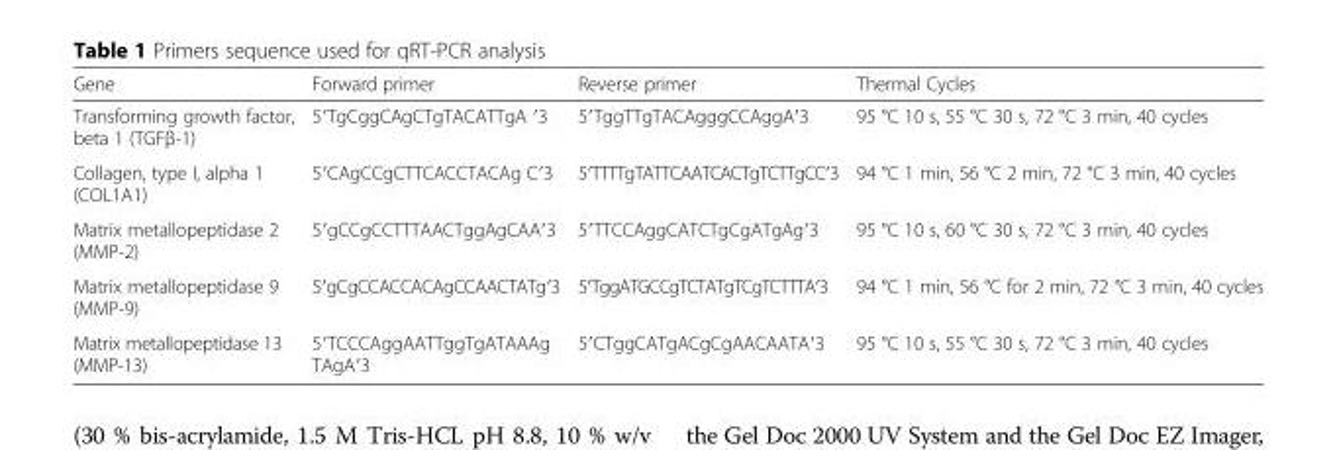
<table><thead><tr><td>Gene</td><td>Forward primer</td><td>Reverse primer</td><td>Thermal Cycles</td></tr></thead><tbody><tr><td>Transforming growth factor, beta 1 (TGFβ-1)</td><td>5′TgCggCAgCTgTACATTgA ′3</td><td>5′TggTTgTACAgggCCAggA′3</td><td>95 °C 10 s, 55 °C 30 s, 72 °C 3 min, 40 cycles</td></tr><tr><td>Collagen, type I, alpha 1 (COL1A1)</td><td>5′CAgCCgCTTCACCTACAg C′3</td><td>5′TTTTgTATTCAATCACTgTCTTgCC′3</td><td>94 °C 1 min, 56 °C 2 min, 72 °C 3 min, 40 cycles</td></tr><tr><td>Matrix metallopeptidase 2 (MMP-2)</td><td>5′gCCgCCTTTAACTggAgCAA′3</td><td>5′TTCCAggCATCTgCgATgAg′3</td><td>95 °C 10 s, 60 °C 30 s, 72 °C 3 min, 40 cycles</td></tr><tr><td>Matrix metallopeptidase 9 (MMP-9)</td><td>5′gCgCCACCACAgCCAACTATg′3</td><td>5′TggATGCCgTCTATgTCgTCTTTA′3</td><td>94 °C 1 min, 56 °C for 2 min, 72 °C 3 min, 40 cycles</td></tr><tr><td>Matrix metallopeptidase 13 (MMP-13)</td><td>5′TCCCAggAATTggTgATAAAg TAgA′3</td><td>5′CTggCATgACgCgAACAATA′3</td><td>95 °C 10 s, 55 °C 30 s, 72 °C 3 min, 40 cycles</td></tr></tbody></table>